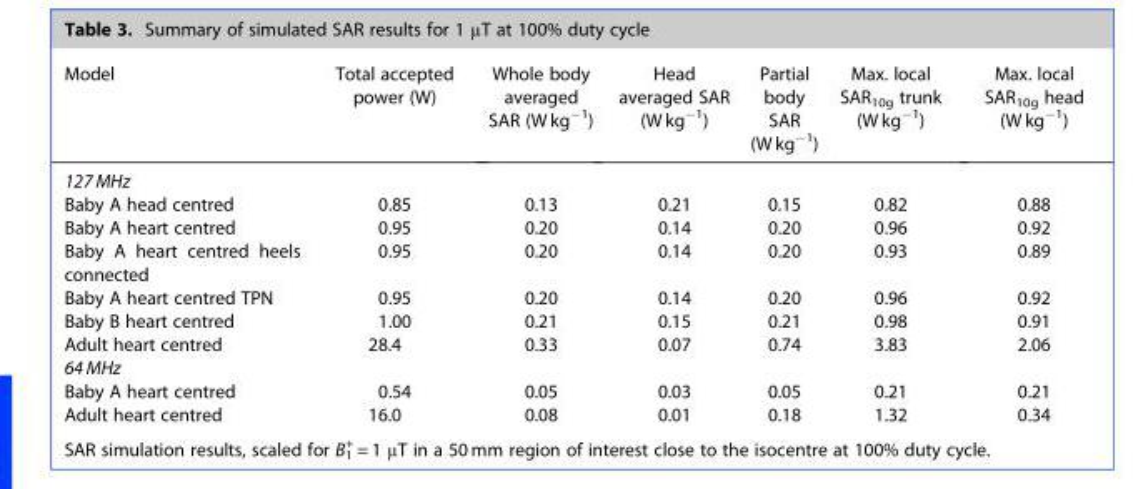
<table><thead><tr><td>Model</td><td>Total accepted power (W)</td><td>Whole body averaged SAR (W kg<sup>−1</sup>)</td><td>Head averaged SAR (W kg<sup>−1</sup>)</td><td>Partial body SAR (W kg<sup>−1</sup>)</td><td>Max. local SAR<sub>10g</sub> trunk (W kg<sup>−1</sup>)</td><td>Max. local SAR<sub>10g</sub> head (W kg<sup>−1</sup>)</td></tr></thead><tbody><tr><td colspan="7">127 MHz</td></tr><tr><td>Baby A head centred</td><td>0.85</td><td>0.13</td><td>0.21</td><td>0.15</td><td>0.82</td><td>0.88</td></tr><tr><td>Baby A heart centred</td><td>0.95</td><td>0.20</td><td>0.14</td><td>0.20</td><td>0.96</td><td>0.92</td></tr><tr><td>Baby A heart centred heels connected</td><td>0.95</td><td>0.20</td><td>0.14</td><td>0.20</td><td>0.93</td><td>0.89</td></tr><tr><td>Baby A heart centred TPN</td><td>0.95</td><td>0.20</td><td>0.14</td><td>0.20</td><td>0.96</td><td>0.92</td></tr><tr><td>Baby B heart centred</td><td>1.00</td><td>0.21</td><td>0.15</td><td>0.21</td><td>0.98</td><td>0.91</td></tr><tr><td>Adult heart centred</td><td>28.4</td><td>0.33</td><td>0.07</td><td>0.74</td><td>3.83</td><td>2.06</td></tr><tr><td colspan="7">64 MHz</td></tr><tr><td>Baby A heart centred</td><td>0.54</td><td>0.05</td><td>0.03</td><td>0.05</td><td>0.21</td><td>0.21</td></tr><tr><td>Adult heart centred</td><td>16.0</td><td>0.08</td><td>0.01</td><td>0.18</td><td>1.32</td><td>0.34</td></tr></tbody></table>